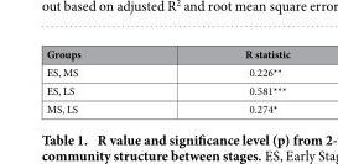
<table><thead><tr><td>Groups</td><td>R statistic</td></tr></thead><tbody><tr><td>ES, MS</td><td>0.226**</td></tr><tr><td>ES, LS</td><td>0.581***</td></tr><tr><td>MS, LS</td><td>0.274*</td></tr></tbody></table>